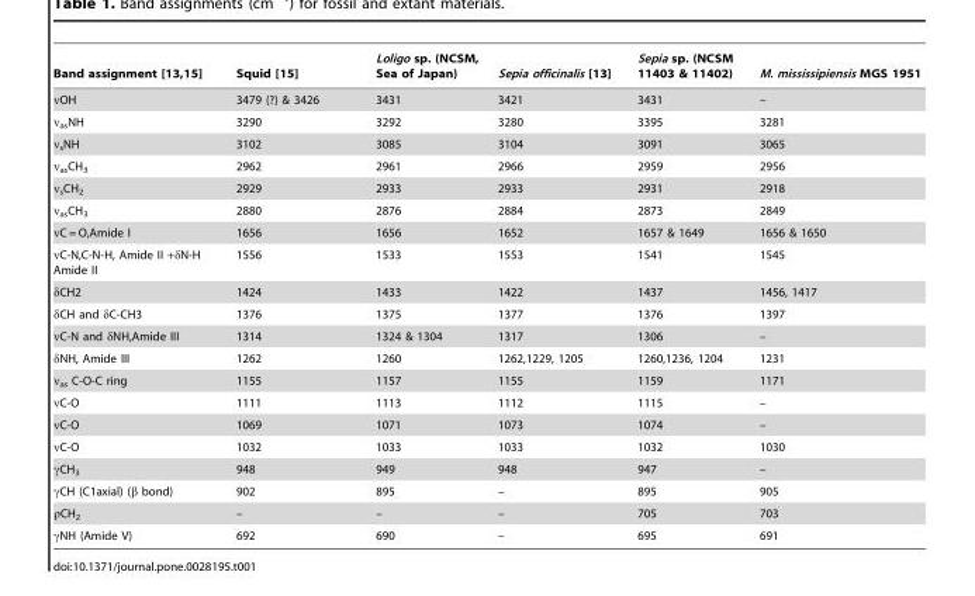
<table><thead><tr><td>Band assignment [13,15]</td><td>Squid [15]</td><td>Loligo sp. (NCSM, Sea of Japan)</td><td>Sepia officinalis [13]</td><td>Sepia sp. (NCSM 11403 &amp; 11402)</td><td>M. mississipiensis MGS 1951</td></tr></thead><tbody><tr><td>νOH</td><td>3479 (?) &amp; 3426</td><td>3431</td><td>3421</td><td>3431</td><td>–</td></tr><tr><td>ν<sub>as</sub>NH</td><td>3290</td><td>3292</td><td>3280</td><td>3395</td><td>3281</td></tr><tr><td>ν<sub>s</sub>NH</td><td>3102</td><td>3085</td><td>3104</td><td>3091</td><td>3065</td></tr><tr><td>ν<sub>as</sub>CH<sub>3</sub></td><td>2962</td><td>2961</td><td>2966</td><td>2959</td><td>2956</td></tr><tr><td>ν<sub>s</sub>CH<sub>2</sub></td><td>2929</td><td>2933</td><td>2933</td><td>2931</td><td>2918</td></tr><tr><td>ν<sub>as</sub>CH<sub>3</sub></td><td>2880</td><td>2876</td><td>2884</td><td>2873</td><td>2849</td></tr><tr><td>νC = O,Amide I</td><td>1656</td><td>1656</td><td>1652</td><td>1657 &amp; 1649</td><td>1656 &amp; 1650</td></tr><tr><td>νC-N,C-N-H, Amide II +δN-H Amide II</td><td>1556</td><td>1533</td><td>1553</td><td>1541</td><td>1545</td></tr><tr><td>δCH2</td><td>1424</td><td>1433</td><td>1422</td><td>1437</td><td>1456, 1417</td></tr><tr><td>δCH and δC-CH3</td><td>1376</td><td>1375</td><td>1377</td><td>1376</td><td>1397</td></tr><tr><td>νC-N and δNH,Amide III</td><td>1314</td><td>1324 &amp; 1304</td><td>1317</td><td>1306</td><td>–</td></tr><tr><td>δNH, Amide III</td><td>1262</td><td>1260</td><td>1262,1229, 1205</td><td>1260,1236, 1204</td><td>1231</td></tr><tr><td>ν<sub>as</sub> C-O-C ring</td><td>1155</td><td>1157</td><td>1155</td><td>1159</td><td>1171</td></tr><tr><td>νC-O</td><td>1111</td><td>1113</td><td>1112</td><td>1115</td><td>–</td></tr><tr><td>νC-O</td><td>1069</td><td>1071</td><td>1073</td><td>1074</td><td>–</td></tr><tr><td>νC-O</td><td>1032</td><td>1033</td><td>1033</td><td>1032</td><td>1030</td></tr><tr><td>γCH<sub>3</sub></td><td>948</td><td>949</td><td>948</td><td>947</td><td>–</td></tr><tr><td>γCH (C1axial) (β bond)</td><td>902</td><td>895</td><td>–</td><td>895</td><td>905</td></tr><tr><td>ρCH<sub>2</sub></td><td>–</td><td>–</td><td>–</td><td>705</td><td>703</td></tr><tr><td>γNH (Amide V)</td><td>692</td><td>690</td><td>–</td><td>695</td><td>691</td></tr></tbody></table>